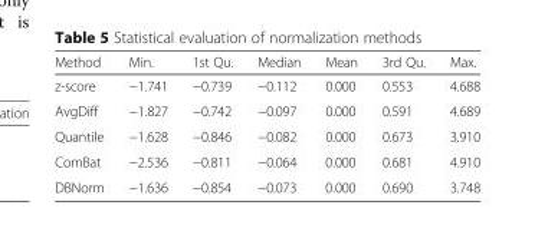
<table><thead><tr><td>Method</td><td>Min.</td><td>1st Qu.</td><td>Median</td><td>Mean</td><td>3rd Qu.</td><td>Max.</td></tr></thead><tbody><tr><td>z-score</td><td>−1.741</td><td>−0.739</td><td>−0.112</td><td>0.000</td><td>0.553</td><td>4.688</td></tr><tr><td>AvgDiff</td><td>−1.827</td><td>−0.742</td><td>−0.097</td><td>0.000</td><td>0.591</td><td>4.689</td></tr><tr><td>Quantile</td><td>−1.628</td><td>−0.846</td><td>−0.082</td><td>0.000</td><td>0.673</td><td>3.910</td></tr><tr><td>ComBat</td><td>−2.536</td><td>−0.811</td><td>−0.064</td><td>0.000</td><td>0.681</td><td>4.910</td></tr><tr><td>DBNorm</td><td>−1.636</td><td>−0.854</td><td>−0.073</td><td>0.000</td><td>0.690</td><td>3.748</td></tr></tbody></table>